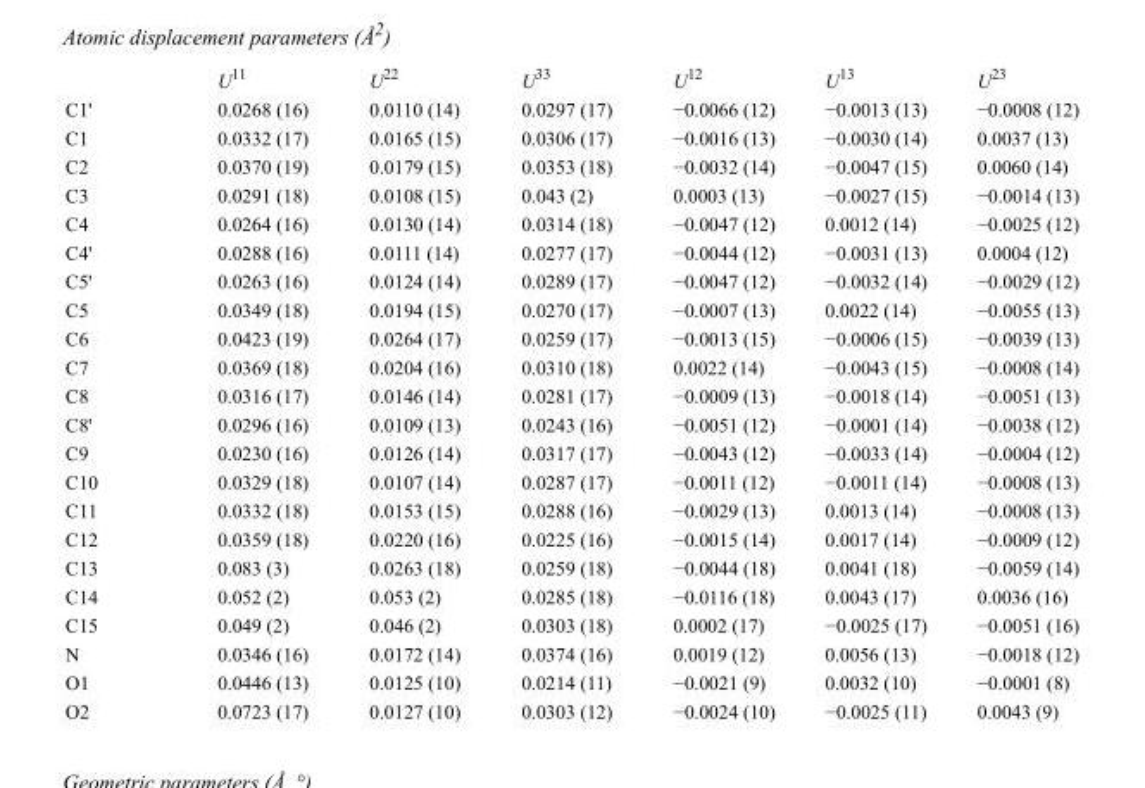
<table><thead><tr><td></td><td>U<sup>11</sup></td><td>U<sup>22</sup></td><td>U<sup>33</sup></td><td>U<sup>12</sup></td><td>U<sup>13</sup></td><td>U<sup>23</sup></td></tr></thead><tbody><tr><td>C1&#x27;</td><td>0.0268 (16)</td><td>0.0110 (14)</td><td>0.0297 (17)</td><td>−0.0066 (12)</td><td>−0.0013 (13)</td><td>−0.0008 (12)</td></tr><tr><td>C1</td><td>0.0332 (17)</td><td>0.0165 (15)</td><td>0.0306 (17)</td><td>−0.0016 (13)</td><td>−0.0030 (14)</td><td>0.0037 (13)</td></tr><tr><td>C2</td><td>0.0370 (19)</td><td>0.0179 (15)</td><td>0.0353 (18)</td><td>−0.0032 (14)</td><td>−0.0047 (15)</td><td>0.0060 (14)</td></tr><tr><td>C3</td><td>0.0291 (18)</td><td>0.0108 (15)</td><td>0.043 (2)</td><td>0.0003 (13)</td><td>−0.0027 (15)</td><td>−0.0014 (13)</td></tr><tr><td>C4</td><td>0.0264 (16)</td><td>0.0130 (14)</td><td>0.0314 (18)</td><td>−0.0047 (12)</td><td>0.0012 (14)</td><td>−0.0025 (12)</td></tr><tr><td>C4&#x27;</td><td>0.0288 (16)</td><td>0.0111 (14)</td><td>0.0277 (17)</td><td>−0.0044 (12)</td><td>−0.0031 (13)</td><td>0.0004 (12)</td></tr><tr><td>C5&#x27;</td><td>0.0263 (16)</td><td>0.0124 (14)</td><td>0.0289 (17)</td><td>−0.0047 (12)</td><td>−0.0032 (14)</td><td>−0.0029 (12)</td></tr><tr><td>C5</td><td>0.0349 (18)</td><td>0.0194 (15)</td><td>0.0270 (17)</td><td>−0.0007 (13)</td><td>0.0022 (14)</td><td>−0.0055 (13)</td></tr><tr><td>C6</td><td>0.0423 (19)</td><td>0.0264 (17)</td><td>0.0259 (17)</td><td>−0.0013 (15)</td><td>−0.0006 (15)</td><td>−0.0039 (13)</td></tr><tr><td>C7</td><td>0.0369 (18)</td><td>0.0204 (16)</td><td>0.0310 (18)</td><td>0.0022 (14)</td><td>−0.0043 (15)</td><td>−0.0008 (14)</td></tr><tr><td>C8</td><td>0.0316 (17)</td><td>0.0146 (14)</td><td>0.0281 (17)</td><td>−0.0009 (13)</td><td>−0.0018 (14)</td><td>−0.0051 (13)</td></tr><tr><td>C8&#x27;</td><td>0.0296 (16)</td><td>0.0109 (13)</td><td>0.0243 (16)</td><td>−0.0051 (12)</td><td>−0.0001 (14)</td><td>−0.0038 (12)</td></tr><tr><td>C9</td><td>0.0230 (16)</td><td>0.0126 (14)</td><td>0.0317 (17)</td><td>−0.0043 (12)</td><td>−0.0033 (14)</td><td>−0.0004 (12)</td></tr><tr><td>C10</td><td>0.0329 (18)</td><td>0.0107 (14)</td><td>0.0287 (17)</td><td>−0.0011 (12)</td><td>−0.0011 (14)</td><td>−0.0008 (13)</td></tr><tr><td>C11</td><td>0.0332 (18)</td><td>0.0153 (15)</td><td>0.0288 (16)</td><td>−0.0029 (13)</td><td>0.0013 (14)</td><td>−0.0008 (13)</td></tr><tr><td>C12</td><td>0.0359 (18)</td><td>0.0220 (16)</td><td>0.0225 (16)</td><td>−0.0015 (14)</td><td>0.0017 (14)</td><td>−0.0009 (12)</td></tr><tr><td>C13</td><td>0.083 (3)</td><td>0.0263 (18)</td><td>0.0259 (18)</td><td>−0.0044 (18)</td><td>0.0041 (18)</td><td>−0.0059 (14)</td></tr><tr><td>C14</td><td>0.052 (2)</td><td>0.053 (2)</td><td>0.0285 (18)</td><td>−0.0116 (18)</td><td>0.0043 (17)</td><td>0.0036 (16)</td></tr><tr><td>C15</td><td>0.049 (2)</td><td>0.046 (2)</td><td>0.0303 (18)</td><td>0.0002 (17)</td><td>−0.0025 (17)</td><td>−0.0051 (16)</td></tr><tr><td>N</td><td>0.0346 (16)</td><td>0.0172 (14)</td><td>0.0374 (16)</td><td>0.0019 (12)</td><td>0.0056 (13)</td><td>−0.0018 (12)</td></tr><tr><td>O1</td><td>0.0446 (13)</td><td>0.0125 (10)</td><td>0.0214 (11)</td><td>−0.0021 (9)</td><td>0.0032 (10)</td><td>−0.0001 (8)</td></tr><tr><td>O2</td><td>0.0723 (17)</td><td>0.0127 (10)</td><td>0.0303 (12)</td><td>−0.0024 (10)</td><td>−0.0025 (11)</td><td>0.0043 (9)</td></tr></tbody></table>